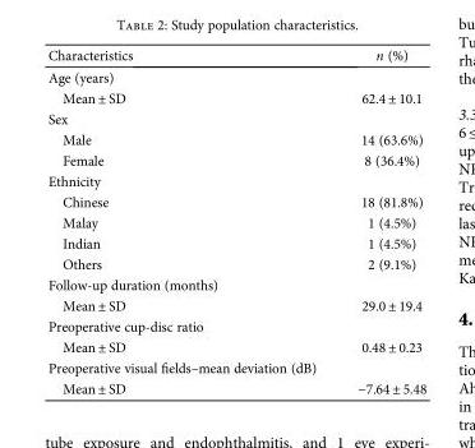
<table><thead><tr><td>Characteristics</td><td>n (%)</td></tr></thead><tbody><tr><td colspan="2">Age (years)</td></tr><tr><td>Mean ± SD</td><td>62.4 ± 10.1</td></tr><tr><td colspan="2">Sex</td></tr><tr><td>Male</td><td>14 (63.6%)</td></tr><tr><td>Female</td><td>8 (36.4%)</td></tr><tr><td colspan="2">Ethnicity</td></tr><tr><td>Chinese</td><td>18 (81.8%)</td></tr><tr><td>Malay</td><td>1 (4.5%)</td></tr><tr><td>Indian</td><td>1 (4.5%)</td></tr><tr><td>Others</td><td>2 (9.1%)</td></tr><tr><td colspan="2">Follow-up duration (months)</td></tr><tr><td>Mean ± SD</td><td>29.0 ± 19.4</td></tr><tr><td colspan="2">Preoperative cup-disc ratio</td></tr><tr><td>Mean ± SD</td><td>0.48 ± 0.23</td></tr><tr><td colspan="2">Preoperative visual fields–mean deviation (dB)</td></tr><tr><td>Mean ± SD</td><td>−7.64 ± 5.48</td></tr></tbody></table>